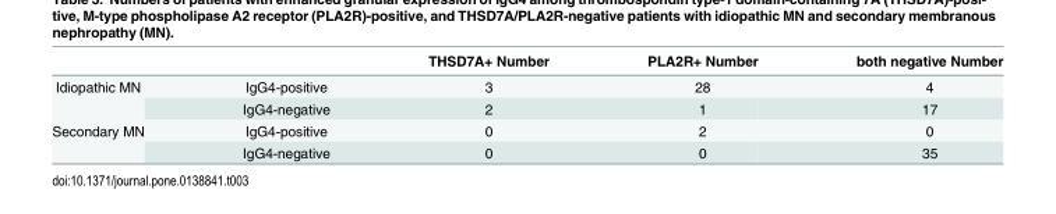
<table><thead><tr><td></td><td></td><td>THSD7A+ Number</td><td>PLA2R+ Number</td><td>both negative Number</td></tr></thead><tbody><tr><td rowspan="2">Idiopathic MN</td><td>IgG4-positive</td><td>3</td><td>28</td><td>4</td></tr><tr><td>IgG4-negative</td><td>2</td><td>1</td><td>17</td></tr><tr><td rowspan="2">Secondary MN</td><td>IgG4-positive</td><td>0</td><td>2</td><td>0</td></tr><tr><td>IgG4-negative</td><td>0</td><td>0</td><td>35</td></tr></tbody></table>